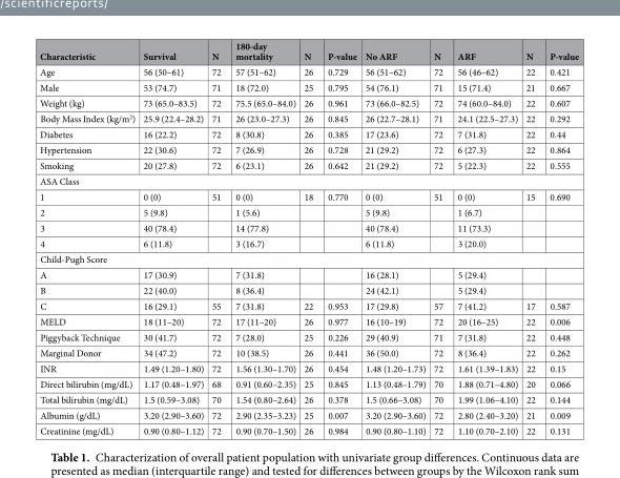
<table><thead><tr><td>Characteristic</td><td>Survival</td><td>N</td><td>180-day mortality</td><td>N</td><td>P-value</td><td>No ARF</td><td>N</td><td>ARF</td><td>N</td><td>P-value</td></tr></thead><tbody><tr><td>Age</td><td>56 (50–61)</td><td>72</td><td>57 (51–62)</td><td>26</td><td>0.729</td><td>56 (51–62)</td><td>72</td><td>56 (46–62)</td><td>22</td><td>0.421</td></tr><tr><td>Male</td><td>53 (74.7)</td><td>71</td><td>18 (72.0)</td><td>25</td><td>0.795</td><td>54 (76.1)</td><td>71</td><td>15 (71.4)</td><td>21</td><td>0.667</td></tr><tr><td>Weight (kg)</td><td>73 (65.0–83.5)</td><td>72</td><td>75.5 (65.0–84.0)</td><td>26</td><td>0.961</td><td>73 (66.0–82.5)</td><td>72</td><td>74 (60.0–84.0)</td><td>22</td><td>0.607</td></tr><tr><td>Body Mass Index (kg/m<sup>2</sup>)</td><td>25.9 (22.4–28.2)</td><td>71</td><td>26 (23.0–27.3)</td><td>26</td><td>0.845</td><td>26 (22.7–28.1)</td><td>71</td><td>24.1 (22.5–27.3)</td><td>22</td><td>0.292</td></tr><tr><td>Diabetes</td><td>16 (22.2)</td><td>72</td><td>8 (30.8)</td><td>26</td><td>0.385</td><td>17 (23.6)</td><td>72</td><td>7 (31.8)</td><td>22</td><td>0.44</td></tr><tr><td>Hypertension</td><td>22 (30.6)</td><td>72</td><td>7 (26.9)</td><td>26</td><td>0.728</td><td>21 (29.2)</td><td>72</td><td>6 (27.3)</td><td>22</td><td>0.864</td></tr><tr><td>Smoking</td><td>20 (27.8)</td><td>72</td><td>6 (23.1)</td><td>26</td><td>0.642</td><td>21 (29.2)</td><td>72</td><td>5 (22.3)</td><td>22</td><td>0.555</td></tr><tr><td colspan="11">ASA Class</td></tr><tr><td>1</td><td>0 (0)</td><td>51</td><td>0 (0)</td><td>18</td><td>0.770</td><td>0 (0)</td><td>51</td><td>0 (0)</td><td>15</td><td>0.690</td></tr><tr><td>2</td><td>5 (9.8)</td><td></td><td>1 (5.6)</td><td></td><td></td><td>5 (9.8)</td><td></td><td>1 (6.7)</td><td></td><td></td></tr><tr><td>3</td><td>40 (78.4)</td><td></td><td>14 (77.8)</td><td></td><td></td><td>40 (78.4)</td><td></td><td>11 (73.3)</td><td></td><td></td></tr><tr><td>4</td><td>6 (11.8)</td><td></td><td>3 (16.7)</td><td></td><td></td><td>6 (11.8)</td><td></td><td>3 (20.0)</td><td></td><td></td></tr><tr><td colspan="11">Child-Pugh Score</td></tr><tr><td>A</td><td>17 (30.9)</td><td></td><td>7 (31.8)</td><td></td><td></td><td>16 (28.1)</td><td></td><td>5 (29.4)</td><td></td><td></td></tr><tr><td>B</td><td>22 (40.0)</td><td></td><td>8 (36.4)</td><td></td><td></td><td>24 (42.1)</td><td></td><td>5 (29.4)</td><td></td><td></td></tr><tr><td>C</td><td>16 (29.1)</td><td>55</td><td>7 (31.8)</td><td>22</td><td>0.953</td><td>17 (29.8)</td><td>57</td><td>7 (41.2)</td><td>17</td><td>0.587</td></tr><tr><td>MELD</td><td>18 (11–20)</td><td>72</td><td>17 (11–20)</td><td>26</td><td>0.977</td><td>16 (10–19)</td><td>72</td><td>20 (16–25)</td><td>22</td><td>0.006</td></tr><tr><td>Piggyback Technique</td><td>30 (41.7)</td><td>72</td><td>7 (28.0)</td><td>25</td><td>0.226</td><td>29 (40.9)</td><td>71</td><td>7 (31.8)</td><td>22</td><td>0.448</td></tr><tr><td>Marginal Donor</td><td>34 (47.2)</td><td>72</td><td>10 (38.5)</td><td>26</td><td>0.441</td><td>36 (50.0)</td><td>72</td><td>8 (36.4)</td><td>22</td><td>0.262</td></tr><tr><td>INR</td><td>1.49 (1.20–1.80)</td><td>72</td><td>1.56 (1.30–1.70)</td><td>26</td><td>0.454</td><td>1.48 (1.20–1.73)</td><td>72</td><td>1.61 (1.39–1.83)</td><td>22</td><td>0.15</td></tr><tr><td>Direct bilirubin (mg/dL)</td><td>1.17 (0.48–1.97)</td><td>68</td><td>0.91 (0.60–2.35)</td><td>25</td><td>0.845</td><td>1.13 (0.48–1.79)</td><td>70</td><td>1.88 (0.71–4.80)</td><td>20</td><td>0.066</td></tr><tr><td>Total bilirubin (mg/dL)</td><td>1.5 (0.59–3.08)</td><td>70</td><td>1.54 (0.80–2.64)</td><td>26</td><td>0.378</td><td>1.5 (0.66–3.08)</td><td>70</td><td>1.99 (1.06–4.10)</td><td>22</td><td>0.144</td></tr><tr><td>Albumin (g/dL)</td><td>3.20 (2.90–3.60)</td><td>72</td><td>2.90 (2.35–3.23)</td><td>25</td><td>0.007</td><td>3.20 (2.90–3.60)</td><td>72</td><td>2.80 (2.40–3.20)</td><td>21</td><td>0.009</td></tr><tr><td>Creatinine (mg/dL)</td><td>0.90 (0.80–1.12)</td><td>72</td><td>0.90 (0.70–1.50)</td><td>26</td><td>0.984</td><td>0.90 (0.80–1.10)</td><td>72</td><td>1.10 (0.70–2.10)</td><td>22</td><td>0.131</td></tr></tbody></table>